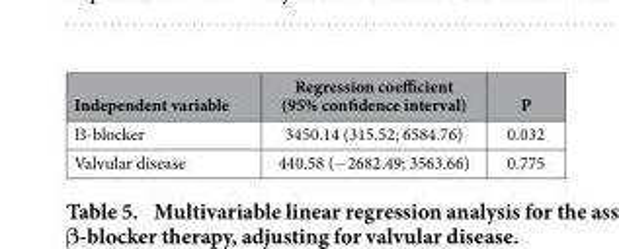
<table><thead><tr><td>Independent variable</td><td>Regression coefficient (95% confidence interval)</td><td>P</td></tr></thead><tbody><tr><td>Β -blocker</td><td>3450.14 (315.52; 6584.76)</td><td>0.032</td></tr><tr><td>Valvular disease</td><td>440.58 (− 2682.49; 3563.66)</td><td>0.775</td></tr></tbody></table>